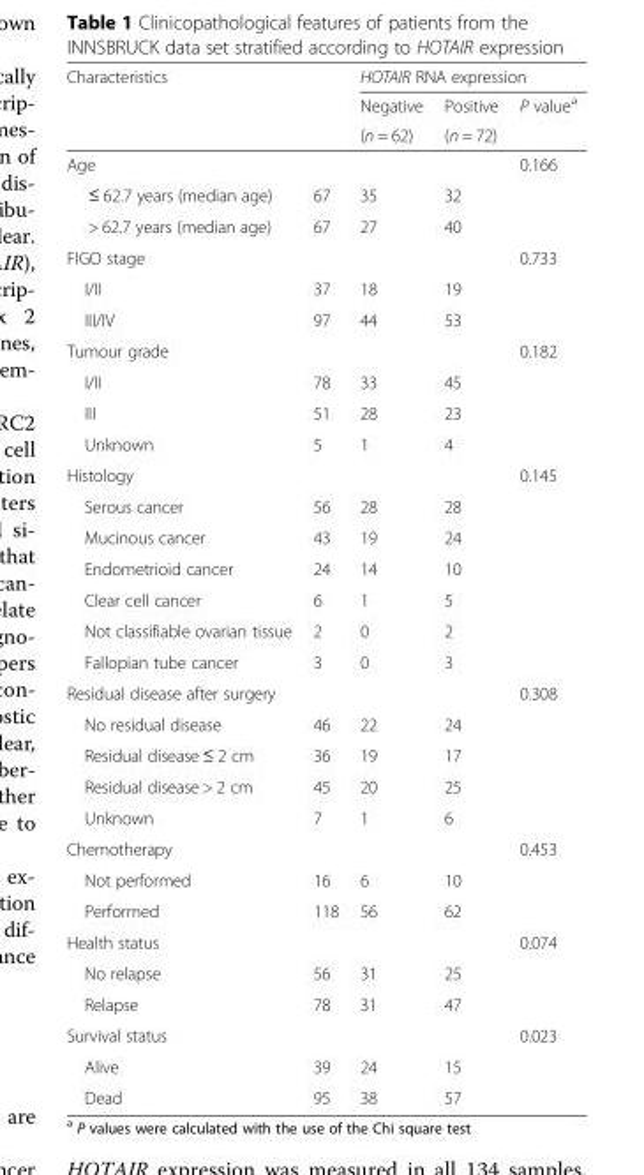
<table><thead><tr><td rowspan="3">Characteristics</td><td rowspan="3"></td><td colspan="3">HOTAIR RNA expression</td></tr><tr><td rowspan="2">Negative (n = 62)</td><td rowspan="2">Positive (n = 72)</td><td rowspan="2">P value<sup>a</sup></td></tr><tr></tr></thead><tbody><tr><td>Age</td><td></td><td></td><td></td><td>0.166</td></tr><tr><td>≤ 62.7 years (median age)</td><td>67</td><td>35</td><td>32</td><td></td></tr><tr><td>&gt; 62.7 years (median age)</td><td>67</td><td>27</td><td>40</td><td></td></tr><tr><td>FIGO stage</td><td></td><td></td><td></td><td>0.733</td></tr><tr><td>I/II</td><td>37</td><td>18</td><td>19</td><td></td></tr><tr><td>III/IV</td><td>97</td><td>44</td><td>53</td><td></td></tr><tr><td>Tumour grade</td><td></td><td></td><td></td><td>0.182</td></tr><tr><td>I/II</td><td>78</td><td>33</td><td>45</td><td></td></tr><tr><td>III</td><td>51</td><td>28</td><td>23</td><td></td></tr><tr><td>Unknown</td><td>5</td><td>1</td><td>4</td><td></td></tr><tr><td>Histology</td><td></td><td></td><td></td><td>0.145</td></tr><tr><td>Serous cancer</td><td>56</td><td>28</td><td>28</td><td></td></tr><tr><td>Mucinous cancer</td><td>43</td><td>19</td><td>24</td><td></td></tr><tr><td>Endometrioid cancer</td><td>24</td><td>14</td><td>10</td><td></td></tr><tr><td>Clear cell cancer</td><td>6</td><td>1</td><td>5</td><td></td></tr><tr><td>Not classifiable ovarian tissue</td><td>2</td><td>0</td><td>2</td><td></td></tr><tr><td>Fallopian tube cancer</td><td>3</td><td>0</td><td>3</td><td></td></tr><tr><td>Residual disease after surgery</td><td></td><td></td><td></td><td>0.308</td></tr><tr><td>No residual disease</td><td>46</td><td>22</td><td>24</td><td></td></tr><tr><td>Residual disease ≤ 2 cm</td><td>36</td><td>19</td><td>17</td><td></td></tr><tr><td>Residual disease &gt; 2 cm</td><td>45</td><td>20</td><td>25</td><td></td></tr><tr><td>Unknown</td><td>7</td><td>1</td><td>6</td><td></td></tr><tr><td>Chemotherapy</td><td></td><td></td><td></td><td>0.453</td></tr><tr><td>Not performed</td><td>16</td><td>6</td><td>10</td><td></td></tr><tr><td>Performed</td><td>118</td><td>56</td><td>62</td><td></td></tr><tr><td>Health status</td><td></td><td></td><td></td><td>0.074</td></tr><tr><td>No relapse</td><td>56</td><td>31</td><td>25</td><td></td></tr><tr><td>Relapse</td><td>78</td><td>31</td><td>47</td><td></td></tr><tr><td>Survival status</td><td></td><td></td><td></td><td>0.023</td></tr><tr><td>Alive</td><td>39</td><td>24</td><td>15</td><td></td></tr><tr><td>Dead</td><td>95</td><td>38</td><td>57</td><td></td></tr></tbody></table>